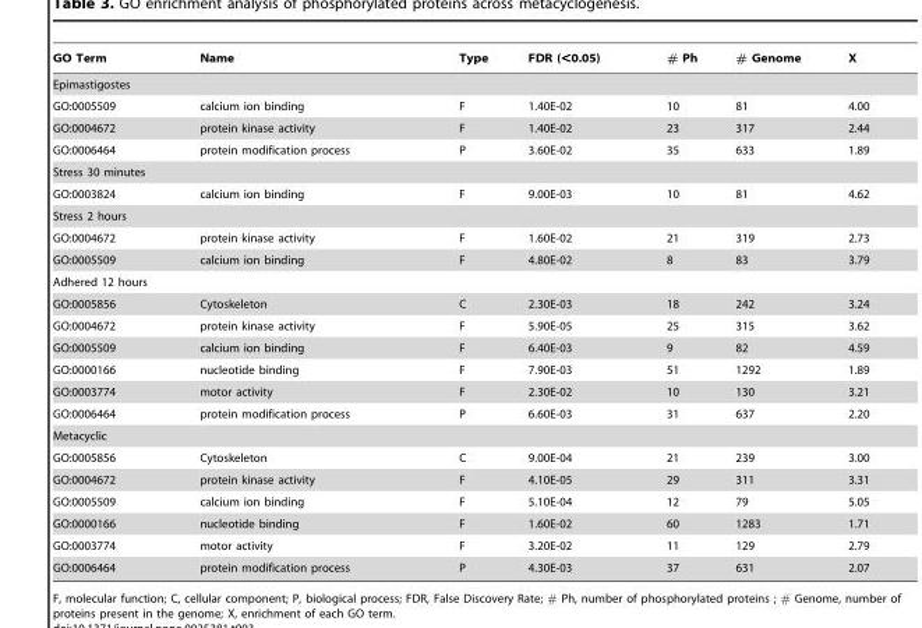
<table><thead><tr><td>GO Term</td><td>Name</td><td>Type</td><td>FDR (&lt;0.05)</td><td># Ph</td><td># Genome</td><td>X</td></tr></thead><tbody><tr><td colspan="7">Epimastigostes</td></tr><tr><td>GO:0005509</td><td>calcium ion binding</td><td>F</td><td>1.40E-02</td><td>10</td><td>81</td><td>4.00</td></tr><tr><td>GO:0004672</td><td>protein kinase activity</td><td>F</td><td>1.40E-02</td><td>23</td><td>317</td><td>2.44</td></tr><tr><td>GO:0006464</td><td>protein modification process</td><td>P</td><td>3.60E-02</td><td>35</td><td>633</td><td>1.89</td></tr><tr><td colspan="7">Stress 30 minutes</td></tr><tr><td>GO:0003824</td><td>calcium ion binding</td><td>F</td><td>9.00E-03</td><td>10</td><td>81</td><td>4.62</td></tr><tr><td colspan="7">Stress 2 hours</td></tr><tr><td>GO:0004672</td><td>protein kinase activity</td><td>F</td><td>1.60E-02</td><td>21</td><td>319</td><td>2.73</td></tr><tr><td>GO:0005509</td><td>calcium ion binding</td><td>F</td><td>4.80E-02</td><td>8</td><td>83</td><td>3.79</td></tr><tr><td colspan="7">Adhered 12 hours</td></tr><tr><td>GO:0005856</td><td>Cytoskeleton</td><td>C</td><td>2.30E-03</td><td>18</td><td>242</td><td>3.24</td></tr><tr><td>GO:0004672</td><td>protein kinase activity</td><td>F</td><td>5.90E-05</td><td>25</td><td>315</td><td>3.62</td></tr><tr><td>GO:0005509</td><td>calcium ion binding</td><td>F</td><td>6.40E-03</td><td>9</td><td>82</td><td>4.59</td></tr><tr><td>GO:0000166</td><td>nucleotide binding</td><td>F</td><td>7.90E-03</td><td>51</td><td>1292</td><td>1.89</td></tr><tr><td>GO:0003774</td><td>motor activity</td><td>F</td><td>2.30E-02</td><td>10</td><td>130</td><td>3.21</td></tr><tr><td>GO:0006464</td><td>protein modification process</td><td>P</td><td>6.60E-03</td><td>31</td><td>637</td><td>2.20</td></tr><tr><td colspan="7">Metacyclic</td></tr><tr><td>GO:0005856</td><td>Cytoskeleton</td><td>C</td><td>9.00E-04</td><td>21</td><td>239</td><td>3.00</td></tr><tr><td>GO:0004672</td><td>protein kinase activity</td><td>F</td><td>4.10E-05</td><td>29</td><td>311</td><td>3.31</td></tr><tr><td>GO:0005509</td><td>calcium ion binding</td><td>F</td><td>5.10E-04</td><td>12</td><td>79</td><td>5.05</td></tr><tr><td>GO:0000166</td><td>nucleotide binding</td><td>F</td><td>1.60E-02</td><td>60</td><td>1283</td><td>1.71</td></tr><tr><td>GO:0003774</td><td>motor activity</td><td>F</td><td>3.20E-02</td><td>11</td><td>129</td><td>2.79</td></tr><tr><td>GO:0006464</td><td>protein modification process</td><td>P</td><td>4.30E-03</td><td>37</td><td>631</td><td>2.07</td></tr></tbody></table>